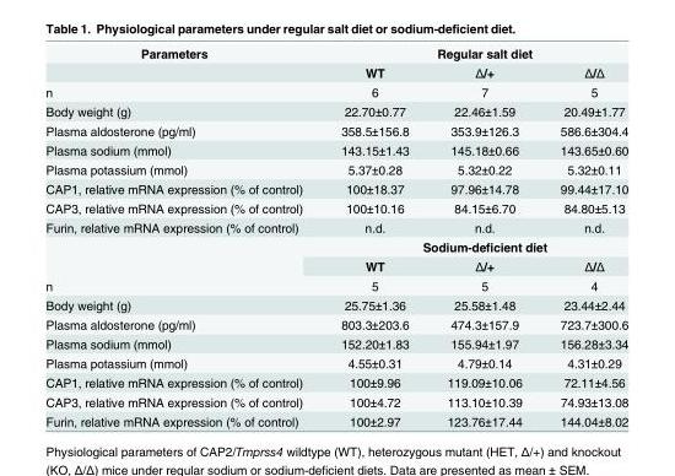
<table><tbody><tr><td rowspan="2">Parameters</td><td colspan="3">Regular salt diet</td></tr><tr><td>WT</td><td>Δ/+</td><td>Δ/Δ</td></tr><tr><td>n</td><td>6</td><td>7</td><td>5</td></tr><tr><td>Body weight (g)</td><td>22.70±0.77</td><td>22.46±1.59</td><td>20.49±1.77</td></tr><tr><td>Plasma aldosterone (pg/ml)</td><td>358.5±156.8</td><td>353.9±126.3</td><td>586.6±304.4</td></tr><tr><td>Plasma sodium (mmol)</td><td>143.15±1.43</td><td>145.18±0.66</td><td>143.65±0.60</td></tr><tr><td>Plasma potassium (mmol)</td><td>5.37±0.28</td><td>5.32±0.22</td><td>5.32±0.11</td></tr><tr><td>CAP1, relative mRNA expression (% of control)</td><td>100±18.37</td><td>97.96±14.78</td><td>99.44±17.10</td></tr><tr><td>CAP3, relative mRNA expression (% of control)</td><td>100±10.16</td><td>84.15±6.70</td><td>84.80±5.13</td></tr><tr><td rowspan="3">Furin, relative mRNA expression (% of control)</td><td>n.d.</td><td>n.d.</td><td>n.d.</td></tr><tr><td colspan="3">Sodium-deficient diet</td></tr><tr><td>WT</td><td>Δ/+</td><td>Δ/Δ</td></tr><tr><td>n</td><td>5</td><td>5</td><td>4</td></tr><tr><td>Body weight (g)</td><td>25.75±1.36</td><td>25.58±1.48</td><td>23.44±2.44</td></tr><tr><td>Plasma aldosterone (pg/ml)</td><td>803.3±203.6</td><td>474.3±157.9</td><td>723.7±300.6</td></tr><tr><td>Plasma sodium (mmol)</td><td>152.20±1.83</td><td>155.94±1.97</td><td>156.28±3.34</td></tr><tr><td>Plasma potassium (mmol)</td><td>4.55±0.31</td><td>4.79±0.14</td><td>4.31±0.29</td></tr><tr><td>CAP1, relative mRNA expression (% of control)</td><td>100±9.96</td><td>119.09±10.06</td><td>72.11±4.56</td></tr><tr><td>CAP3, relative mRNA expression (% of control)</td><td>100±4.72</td><td>113.10±10.39</td><td>74.93±13.08</td></tr><tr><td>Furin, relative mRNA expression (% of control)</td><td>100±2.97</td><td>123.76±17.44</td><td>144.04±8.02</td></tr></tbody></table>